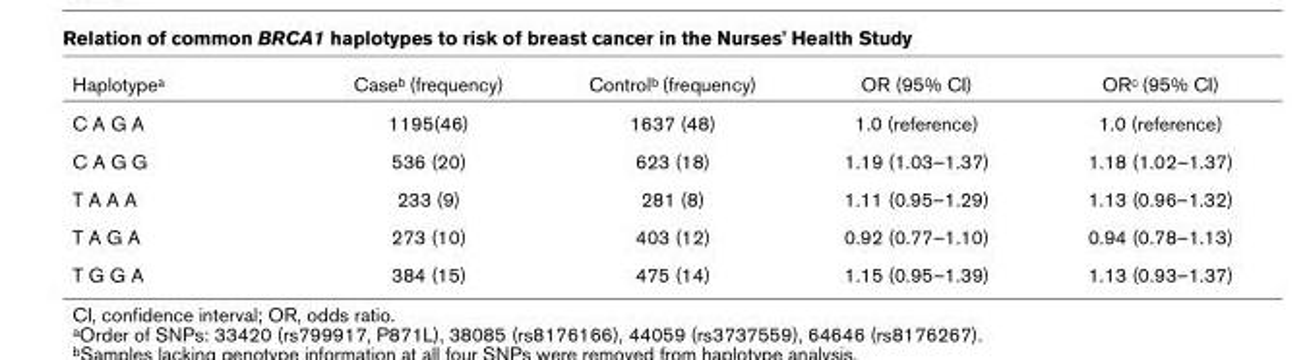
<table><thead><tr><td>Haplotypea</td><td>Caseb (frequency)</td><td>Controlb (frequency)</td><td>OR (95% CI)</td><td>ORc (95% CI)</td></tr></thead><tbody><tr><td>C A G A</td><td>1195(46)</td><td>1637 (48)</td><td>1.0 (reference)</td><td>1.0 (reference)</td></tr><tr><td>C A G G</td><td>536 (20)</td><td>623 (18)</td><td>1.19 (1.03–1.37)</td><td>1.18 (1.02–1.37)</td></tr><tr><td>T A A A</td><td>233 (9)</td><td>281 (8)</td><td>1.11 (0.95–1.29)</td><td>1.13 (0.96–1.32)</td></tr><tr><td>T A G A</td><td>273 (10)</td><td>403 (12)</td><td>0.92 (0.77–1.10)</td><td>0.94 (0.78–1.13)</td></tr><tr><td>T G G A</td><td>384 (15)</td><td>475 (14)</td><td>1.15 (0.95–1.39)</td><td>1.13 (0.93–1.37)</td></tr></tbody></table>